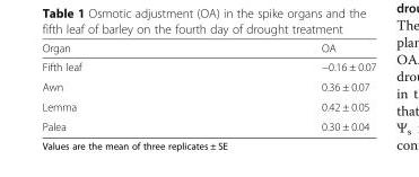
<table><thead><tr><td>Organ</td><td>OA</td></tr></thead><tbody><tr><td>Fifth leaf</td><td>−0.16 ± 0.07</td></tr><tr><td>Awn</td><td>0.36 ± 0.07</td></tr><tr><td>Lemma</td><td>0.42 ± 0.05</td></tr><tr><td>Palea</td><td>0.30 ± 0.04</td></tr></tbody></table>